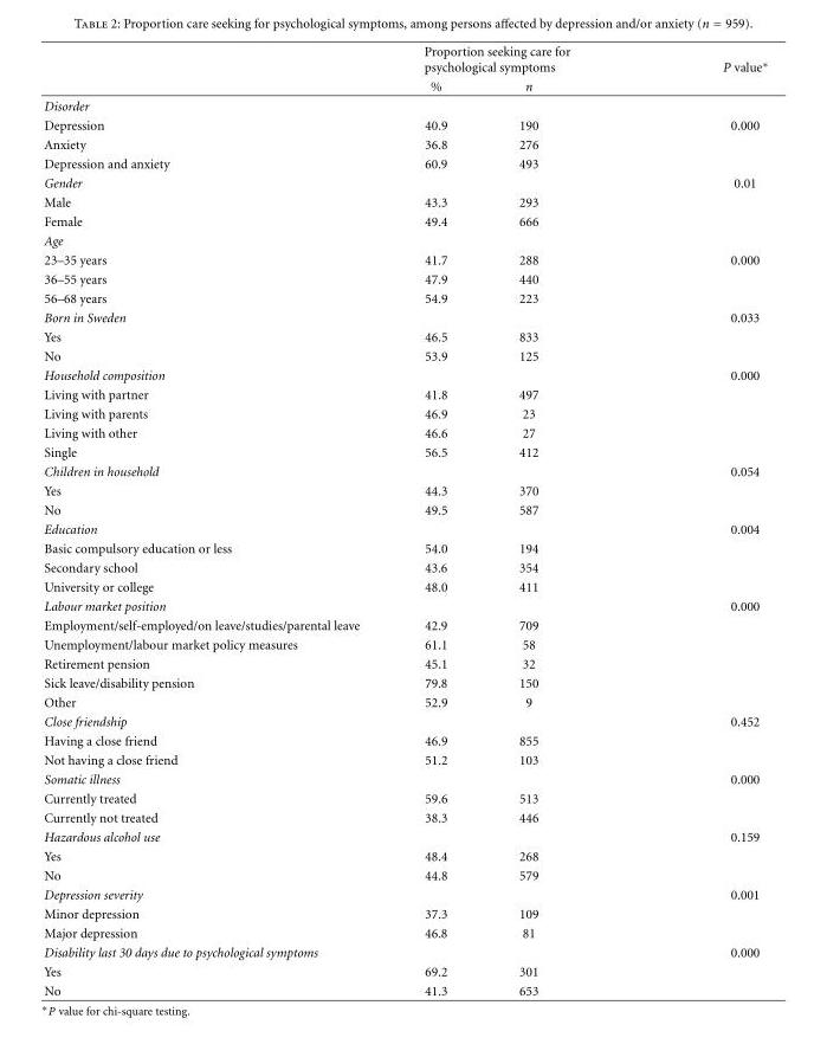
<table><thead><tr><td rowspan="2"></td><td colspan="2">Proportion seeking care for psychological symptoms</td><td rowspan="2">P value∗</td></tr><tr><td>%</td><td>n</td></tr></thead><tbody><tr><td colspan="4">Disorder</td></tr><tr><td>Depression</td><td>40.9</td><td>190</td><td>0.000</td></tr><tr><td>Anxiety</td><td>36.8</td><td>276</td><td></td></tr><tr><td>Depression and anxiety</td><td>60.9</td><td>493</td><td></td></tr><tr><td>Gender</td><td></td><td></td><td>0.01</td></tr><tr><td>Male</td><td>43.3</td><td>293</td><td></td></tr><tr><td>Female</td><td>49.4</td><td>666</td><td></td></tr><tr><td colspan="4">Age</td></tr><tr><td>23–35 years</td><td>41.7</td><td>288</td><td>0.000</td></tr><tr><td>36–55 years</td><td>47.9</td><td>440</td><td></td></tr><tr><td>56–68 years</td><td>54.9</td><td>223</td><td></td></tr><tr><td>Born in Sweden</td><td></td><td></td><td>0.033</td></tr><tr><td>Yes</td><td>46.5</td><td>833</td><td></td></tr><tr><td>No</td><td>53.9</td><td>125</td><td></td></tr><tr><td>Household composition</td><td></td><td></td><td>0.000</td></tr><tr><td>Living with partner</td><td>41.8</td><td>497</td><td></td></tr><tr><td>Living with parents</td><td>46.9</td><td>23</td><td></td></tr><tr><td>Living with other</td><td>46.6</td><td>27</td><td></td></tr><tr><td>Single</td><td>56.5</td><td>412</td><td></td></tr><tr><td>Children in household</td><td></td><td></td><td>0.054</td></tr><tr><td>Yes</td><td>44.3</td><td>370</td><td></td></tr><tr><td>No</td><td>49.5</td><td>587</td><td></td></tr><tr><td>Education</td><td></td><td></td><td>0.004</td></tr><tr><td>Basic compulsory education or less</td><td>54.0</td><td>194</td><td></td></tr><tr><td>Secondary school</td><td>43.6</td><td>354</td><td></td></tr><tr><td>University or college</td><td>48.0</td><td>411</td><td></td></tr><tr><td>Labour market position</td><td></td><td></td><td>0.000</td></tr><tr><td>Employment/self-employed/on leave/studies/parental leave</td><td>42.9</td><td>709</td><td></td></tr><tr><td>Unemployment/labour market policy measures</td><td>61.1</td><td>58</td><td></td></tr><tr><td>Retirement pension</td><td>45.1</td><td>32</td><td></td></tr><tr><td>Sick leave/disability pension</td><td>79.8</td><td>150</td><td></td></tr><tr><td>Other</td><td>52.9</td><td>9</td><td></td></tr><tr><td>Close friendship</td><td></td><td></td><td>0.452</td></tr><tr><td>Having a close friend</td><td>46.9</td><td>855</td><td></td></tr><tr><td>Not having a close friend</td><td>51.2</td><td>103</td><td></td></tr><tr><td>Somatic illness</td><td></td><td></td><td>0.000</td></tr><tr><td>Currently treated</td><td>59.6</td><td>513</td><td></td></tr><tr><td>Currently not treated</td><td>38.3</td><td>446</td><td></td></tr><tr><td>Hazardous alcohol use</td><td></td><td></td><td>0.159</td></tr><tr><td>Yes</td><td>48.4</td><td>268</td><td></td></tr><tr><td>No</td><td>44.8</td><td>579</td><td></td></tr><tr><td>Depression severity</td><td></td><td></td><td>0.001</td></tr><tr><td>Minor depression</td><td>37.3</td><td>109</td><td></td></tr><tr><td>Major depression</td><td>46.8</td><td>81</td><td></td></tr><tr><td>Disability last 30 days due to psychological symptoms</td><td></td><td></td><td>0.000</td></tr><tr><td>Yes</td><td>69.2</td><td>301</td><td></td></tr><tr><td>No</td><td>41.3</td><td>653</td><td></td></tr></tbody></table>